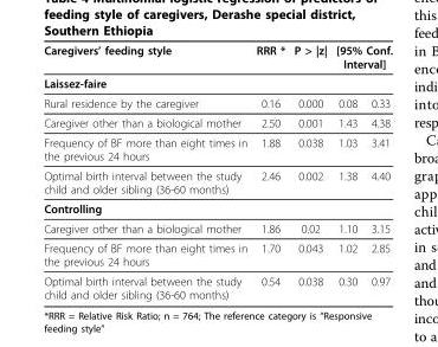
<table><thead><tr><td rowspan="2">Caregivers’ feeding style Laissez-faire</td><td rowspan="2">RRR *</td><td rowspan="2">P &gt; |z|</td><td colspan="2">[95% Conf. Interval]</td></tr><tr><td></td><td></td></tr></thead><tbody><tr><td>Rural residence by the caregiver</td><td>0.16</td><td>0.000</td><td>0.08</td><td>0.33</td></tr><tr><td>Caregiver other than a biological mother</td><td>2.50</td><td>0.001</td><td>1.43</td><td>4.38</td></tr><tr><td>Frequency of BF more than eight times in the previous 24 hours</td><td>1.88</td><td>0.038</td><td>1.03</td><td>3.41</td></tr><tr><td>Optimal birth interval between the study child and older sibling (36-60 months)</td><td>2.46</td><td>0.002</td><td>1.38</td><td>4.40</td></tr><tr><td colspan="5">Controlling</td></tr><tr><td>Caregiver other than a biological mother</td><td>1.86</td><td>0.02</td><td>1.10</td><td>3.15</td></tr><tr><td>Frequency of BF more than eight times in the previous 24 hours</td><td>1.70</td><td>0.043</td><td>1.02</td><td>2.85</td></tr><tr><td>Optimal birth interval between the study child and older sibling (36-60 months)</td><td>0.54</td><td>0.038</td><td>0.30</td><td>0.97</td></tr></tbody></table>